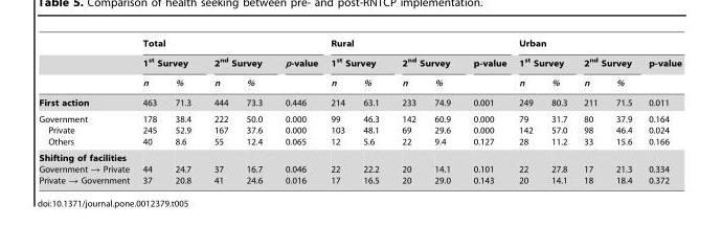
<table><thead><tr><td rowspan="3"></td><td colspan="5">Total</td><td colspan="5">Rural</td><td colspan="5">Urban</td></tr><tr><td colspan="2">1<sup>st</sup> Survey</td><td colspan="2">2<sup>nd</sup> Survey</td><td rowspan="2">p-value</td><td colspan="2">1<sup>st</sup> Survey</td><td colspan="2">2<sup>nd</sup> Survey</td><td rowspan="2">p-value</td><td colspan="2">1<sup>st</sup> Survey</td><td colspan="2">2<sup>nd</sup> Survey</td><td rowspan="2">p-value</td></tr><tr><td>n</td><td>%</td><td>n</td><td>%</td><td>n</td><td>%</td><td>n</td><td>%</td><td>n</td><td>%</td><td>n</td><td>%</td></tr></thead><tbody><tr><td>First action</td><td>463</td><td>71.3</td><td>444</td><td>73.3</td><td>0.446</td><td>214</td><td>63.1</td><td>233</td><td>74.9</td><td>0.001</td><td>249</td><td>80.3</td><td>211</td><td>71.5</td><td>0.011</td></tr><tr><td>Government Private Others</td><td>178 245 40</td><td>38.4 52.9 8.6</td><td>222 167 55</td><td>50.0 37.6 12.4</td><td>0.000 0.000 0.065</td><td>99 103 12</td><td>46.3 48.1 5.6</td><td>142 69 22</td><td>60.9 29.6 9.4</td><td>0.000 0.000 0.127</td><td>79 142 28</td><td>31.7 57.0 11.2</td><td>80 98 33</td><td>37.9 46.4 15.6</td><td>0.164 0.024 0.166</td></tr><tr><td>Shifting of facilities Government → Private Private → Government</td><td>44 37</td><td>24.7 20.8</td><td>37 41</td><td>16.7 24.6</td><td>0.046 0.016</td><td>22 17</td><td>22.2 16.5</td><td>20 20</td><td>14.1 29.0</td><td>0.101 0.143</td><td>22 20</td><td>27.8 14.1</td><td>17 18</td><td>21.3 18.4</td><td>0.334 0.372</td></tr></tbody></table>